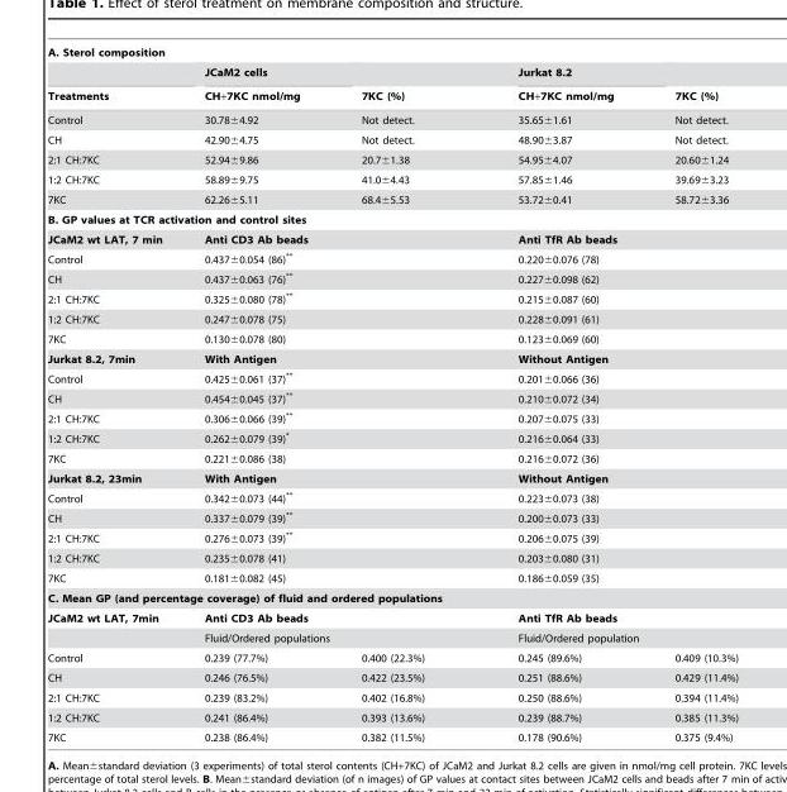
<table><thead><tr><td colspan="5">A. Sterol composition</td></tr><tr><td rowspan="2">Treatments</td><td rowspan="2">JCaM2 cells CH+7KC nmol/mg</td><td rowspan="2">7KC (%)</td><td rowspan="2">Jurkat 8.2 CH+7KC nmol/mg</td><td rowspan="2">7KC (%)</td></tr><tr></tr></thead><tbody><tr><td>Control</td><td>30.78±4.92</td><td>Not detect.</td><td>35.65±1.61</td><td>Not detect.</td></tr><tr><td>CH</td><td>42.90±4.75</td><td>Not detect.</td><td>48.90±3.87</td><td>Not detect.</td></tr><tr><td>2:1 CH:7KC</td><td>52.94±9.86</td><td>20.7±1.38</td><td>54.95±4.07</td><td>20.60±1.24</td></tr><tr><td>1:2 CH:7KC</td><td>58.89±9.75</td><td>41.0±4.43</td><td>57.85±1.46</td><td>39.69±3.23</td></tr><tr><td>7KC</td><td>62.26±5.11</td><td>68.4±5.53</td><td>53.72±0.41</td><td>58.72±3.36</td></tr><tr><td colspan="5">B. GP values at TCR activation and control sites</td></tr><tr><td>JCaM2 wt LAT, 7 min</td><td colspan="2">Anti CD3 Ab beads</td><td colspan="2">Anti TfR Ab beads</td></tr><tr><td>Control</td><td colspan="2">0.437±0.054 (86)**</td><td colspan="2">0.220±0.076 (78)</td></tr><tr><td>CH</td><td colspan="2">0.437±0.063 (76)**</td><td colspan="2">0.227±0.098 (62)</td></tr><tr><td>2:1 CH:7KC</td><td colspan="2">0.325±0.080 (78)**</td><td colspan="2">0.215±0.087 (60)</td></tr><tr><td>1:2 CH:7KC</td><td colspan="2">0.247±0.078 (75)</td><td colspan="2">0.228±0.091 (61)</td></tr><tr><td>7KC</td><td colspan="2">0.130±0.078 (80)</td><td colspan="2">0.123±0.069 (60)</td></tr><tr><td>Jurkat 8.2, 7min</td><td colspan="2">With Antigen</td><td colspan="2">Without Antigen</td></tr><tr><td>Control</td><td colspan="2">0.425±0.061 (37)**</td><td colspan="2">0.201±0.066 (36)</td></tr><tr><td>CH</td><td colspan="2">0.454±0.045 (37)**</td><td colspan="2">0.210±0.072 (34)</td></tr><tr><td>2:1 CH:7KC</td><td colspan="2">0.306±0.066 (39)**</td><td colspan="2">0.207±0.075 (33)</td></tr><tr><td>1:2 CH:7KC</td><td colspan="2">0.262±0.079 (39)*</td><td colspan="2">0.216±0.064 (33)</td></tr><tr><td>7KC</td><td colspan="2">0.221±0.086 (38)</td><td colspan="2">0.216±0.072 (36)</td></tr><tr><td>Jurkat 8.2, 23min</td><td colspan="2">With Antigen</td><td colspan="2">Without Antigen</td></tr><tr><td>Control</td><td colspan="2">0.342±0.073 (44)**</td><td colspan="2">0.223±0.073 (38)</td></tr><tr><td>CH</td><td colspan="2">0.337±0.079 (39)**</td><td colspan="2">0.200±0.073 (33)</td></tr><tr><td>2:1 CH:7KC</td><td colspan="2">0.276±0.073 (39)**</td><td colspan="2">0.206±0.075 (39)</td></tr><tr><td>1:2 CH:7KC</td><td colspan="2">0.235±0.078 (41)</td><td colspan="2">0.203±0.080 (31)</td></tr><tr><td>7KC</td><td colspan="2">0.181±0.082 (45)</td><td colspan="2">0.186±0.059 (35)</td></tr><tr><td colspan="5">C. Mean GP (and percentage coverage) of fluid and ordered populations</td></tr><tr><td rowspan="2">JCaM2 wt LAT, 7min</td><td colspan="2">Anti CD3 Ab beads</td><td colspan="2">Anti TfR Ab beads</td></tr><tr><td colspan="2">Fluid/Ordered populations</td><td colspan="2">Fluid/Ordered population</td></tr><tr><td>Control</td><td>0.239 (77.7%)</td><td>0.400 (22.3%)</td><td>0.245 (89.6%)</td><td>0.409 (10.3%)</td></tr><tr><td>CH</td><td>0.246 (76.5%)</td><td>0.422 (23.5%)</td><td>0.251 (88.6%)</td><td>0.429 (11.4%)</td></tr><tr><td>2:1 CH:7KC</td><td>0.239 (83.2%)</td><td>0.402 (16.8%)</td><td>0.250 (88.6%)</td><td>0.394 (11.4%)</td></tr><tr><td>1:2 CH:7KC</td><td>0.241 (86.4%)</td><td>0.393 (13.6%)</td><td>0.239 (88.7%)</td><td>0.385 (11.3%)</td></tr><tr><td>7KC</td><td>0.238 (86.4%)</td><td>0.382 (11.5%)</td><td>0.178 (90.6%)</td><td>0.375 (9.4%)</td></tr></tbody></table>